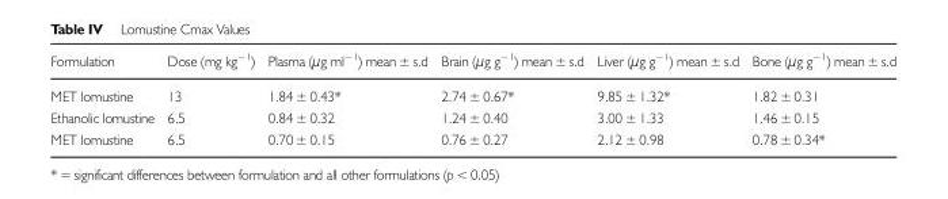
<table><thead><tr><td>Formulation</td><td>Dose (mg kg<sup>−1</sup>)</td><td>Plasma (μg ml<sup>−1</sup>) mean ± s.d</td><td>Brain (μg g<sup>−1</sup>) mean ± s.d</td><td>Liver (μg g<sup>−1</sup>) mean ± s.d</td><td>Bone (μg g<sup>−1</sup>) mean ± s.d</td></tr></thead><tbody><tr><td>MET lomustine</td><td>13</td><td>1.84 ± 0.43*</td><td>2.74 ± 0.67*</td><td>9.85 ± 1.32*</td><td>1.82 ± 0.31</td></tr><tr><td>Ethanolic lomustine</td><td>6.5</td><td>0.84 ± 0.32</td><td>1.24 ± 0.40</td><td>3.00 ± 1.33</td><td>1.46 ± 0.15</td></tr><tr><td>MET lomustine</td><td>6.5</td><td>0.70 ± 0.15</td><td>0.76 ± 0.27</td><td>2.12 ± 0.98</td><td>0.78 ± 0.34*</td></tr></tbody></table>